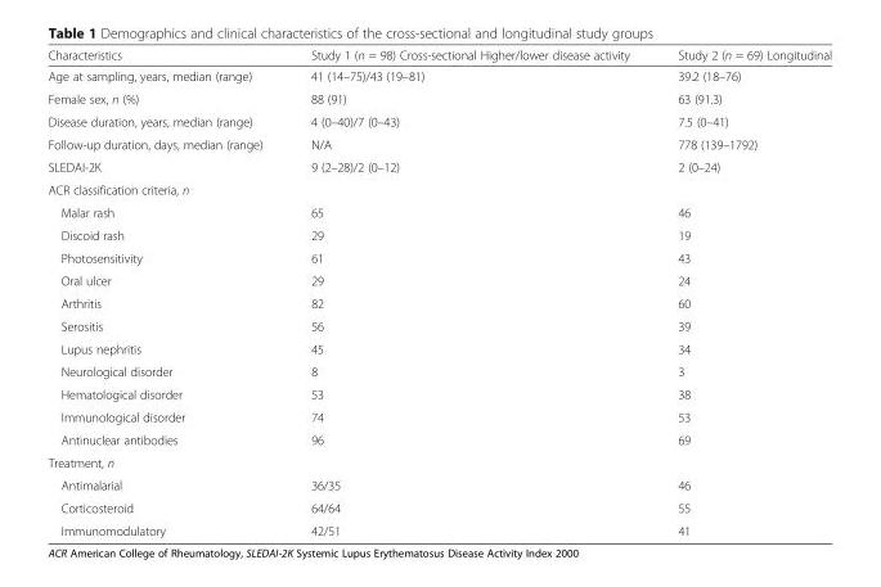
<table><thead><tr><td>Characteristics</td><td>Study 1 (n = 98) Cross-sectional Higher/lower disease activity</td><td>Study 2 (n = 69) Longitudinal</td></tr></thead><tbody><tr><td>Age at sampling, years, median (range)</td><td>41 (14–75)/43 (19–81)</td><td>39.2 (18–76)</td></tr><tr><td>Female sex, n (%)</td><td>88 (91)</td><td>63 (91.3)</td></tr><tr><td>Disease duration, years, median (range)</td><td>4 (0–40)/7 (0–43)</td><td>7.5 (0–41)</td></tr><tr><td>Follow-up duration, days, median (range)</td><td>N/A</td><td>778 (139–1792)</td></tr><tr><td>SLEDAI-2K</td><td>9 (2–28)/2 (0–12)</td><td>2 (0–24)</td></tr><tr><td colspan="3">ACR classification criteria, n</td></tr><tr><td>Malar rash</td><td>65</td><td>46</td></tr><tr><td>Discoid rash</td><td>29</td><td>19</td></tr><tr><td>Photosensitivity</td><td>61</td><td>43</td></tr><tr><td>Oral ulcer</td><td>29</td><td>24</td></tr><tr><td>Arthritis</td><td>82</td><td>60</td></tr><tr><td>Serositis</td><td>56</td><td>39</td></tr><tr><td>Lupus nephritis</td><td>45</td><td>34</td></tr><tr><td>Neurological disorder</td><td>8</td><td>3</td></tr><tr><td>Hematological disorder</td><td>53</td><td>38</td></tr><tr><td>Immunological disorder</td><td>74</td><td>53</td></tr><tr><td>Antinuclear antibodies</td><td>96</td><td>69</td></tr><tr><td colspan="3">Treatment, n</td></tr><tr><td>Antimalarial</td><td>36/35</td><td>46</td></tr><tr><td>Corticosteroid</td><td>64/64</td><td>55</td></tr><tr><td>Immunomodulatory</td><td>42/51</td><td>41</td></tr></tbody></table>